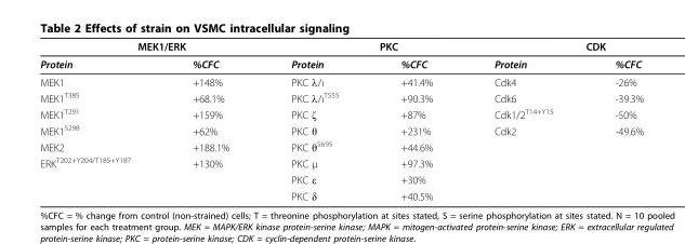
<table><thead><tr><td colspan="2">MEK1/ERK</td><td colspan="2">PKC</td><td colspan="2">CDK</td></tr><tr><td>Protein</td><td>%CFC</td><td>Protein</td><td>%CFC</td><td>Protein</td><td>%CFC</td></tr></thead><tbody><tr><td>MEK1</td><td>+148%</td><td>PKC λ/ι</td><td>+41.4%</td><td>Cdk4</td><td>-26%</td></tr><tr><td>MEK1<sup>T385</sup></td><td>+68.1%</td><td>PKC λ/ι<sup>T555</sup></td><td>+90.3%</td><td>Cdk6</td><td>-39.3%</td></tr><tr><td>MEK1<sup>T291</sup></td><td>+159%</td><td>PKC ζ</td><td>+87%</td><td>Cdk1/2<sup>T14+Y15</sup></td><td>-50%</td></tr><tr><td>MEK1<sup>S298</sup></td><td>+62%</td><td>PKC θ</td><td>+231%</td><td>Cdk2</td><td>-49.6%</td></tr><tr><td>MEK2</td><td>+188.1%</td><td>PKC θ<sup>S695</sup></td><td>+44.6%</td><td></td><td></td></tr><tr><td rowspan="3">ERK<sup>T202+Y204/T185+Y187</sup></td><td>+130%</td><td>PKC μ</td><td>+97.3%</td><td></td><td></td></tr><tr><td></td><td>PKC ε</td><td>+30%</td><td></td><td></td></tr><tr><td></td><td>PKC δ</td><td>+40.5%</td><td></td><td></td></tr></tbody></table>